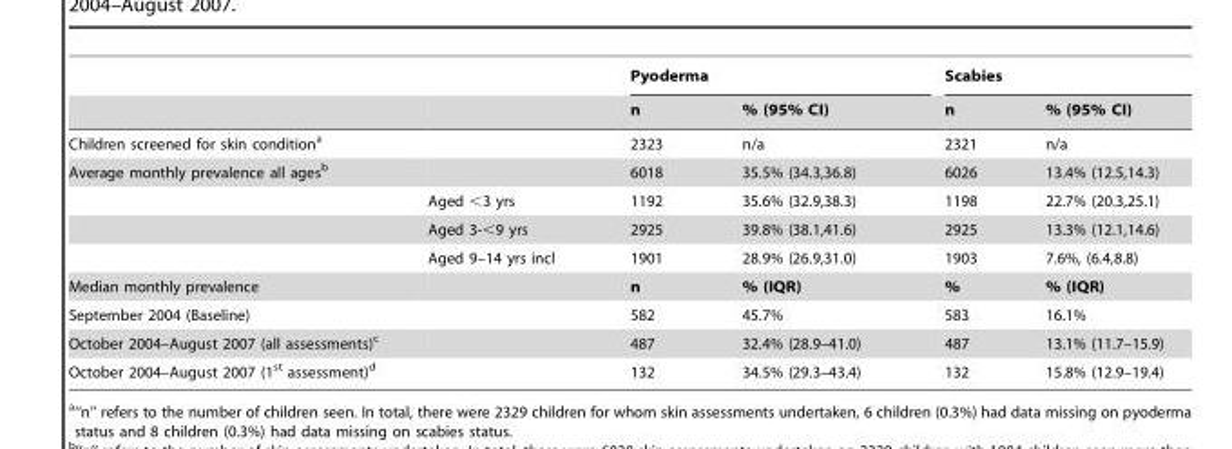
<table><thead><tr><td rowspan="2"></td><td rowspan="2"></td><td colspan="2">Pyoderma</td><td colspan="2">Scabies</td></tr><tr><td>n</td><td>% (95% CI)</td><td>n</td><td>% (95% CI)</td></tr></thead><tbody><tr><td>Children screened for skin condition<sup>a</sup></td><td></td><td>2323</td><td>n/a</td><td>2321</td><td>n/a</td></tr><tr><td rowspan="4">Average monthly prevalence all ages<sup>b</sup></td><td></td><td>6018</td><td>35.5% (34.3,36.8)</td><td>6026</td><td>13.4% (12.5,14.3)</td></tr><tr><td>Aged &lt;3 yrs</td><td>1192</td><td>35.6% (32.9,38.3)</td><td>1198</td><td>22.7% (20.3,25.1)</td></tr><tr><td>Aged 3-&lt;9 yrs</td><td>2925</td><td>39.8% (38.1,41.6)</td><td>2925</td><td>13.3% (12.1,14.6)</td></tr><tr><td>Aged 9–14 yrs incl</td><td>1901</td><td>28.9% (26.9,31.0)</td><td>1903</td><td>7.6%, (6.4,8.8)</td></tr><tr><td>Median monthly prevalence</td><td></td><td>n</td><td>% (IQR)</td><td>%</td><td>% (IQR)</td></tr><tr><td>September 2004 (Baseline)</td><td></td><td>582</td><td>45.7%</td><td>583</td><td>16.1%</td></tr><tr><td>October 2004–August 2007 (all assessments)<sup>c</sup></td><td></td><td>487</td><td>32.4% (28.9–41.0)</td><td>487</td><td>13.1% (11.7–15.9)</td></tr><tr><td>October 2004–August 2007 (1<sup>st</sup> assessment)<sup>d</sup></td><td></td><td>132</td><td>34.5% (29.3–43.4)</td><td>132</td><td>15.8% (12.9–19.4)</td></tr></tbody></table>